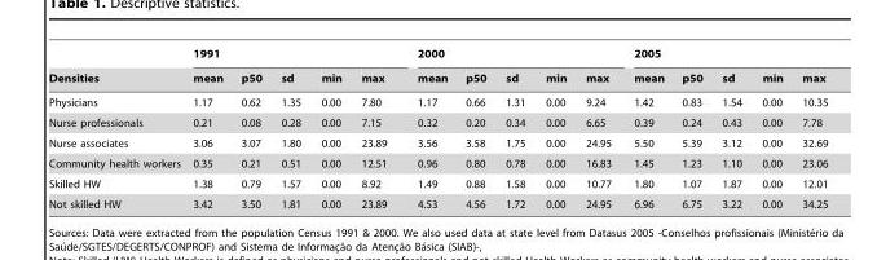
<table><thead><tr><td rowspan="2">Densities</td><td colspan="5">1991</td><td colspan="5">2000</td><td colspan="5">2005</td></tr><tr><td>mean</td><td>p50</td><td>sd</td><td>min</td><td>max</td><td>mean</td><td>p50</td><td>sd</td><td>min</td><td>max</td><td>mean</td><td>p50</td><td>sd</td><td>min</td><td>max</td></tr></thead><tbody><tr><td>Physicians</td><td>1.17</td><td>0.62</td><td>1.35</td><td>0.00</td><td>7.80</td><td>1.17</td><td>0.66</td><td>1.31</td><td>0.00</td><td>9.24</td><td>1.42</td><td>0.83</td><td>1.54</td><td>0.00</td><td>10.35</td></tr><tr><td>Nurse professionals</td><td>0.21</td><td>0.08</td><td>0.28</td><td>0.00</td><td>7.15</td><td>0.32</td><td>0.20</td><td>0.34</td><td>0.00</td><td>6.65</td><td>0.39</td><td>0.24</td><td>0.43</td><td>0.00</td><td>7.78</td></tr><tr><td>Nurse associates</td><td>3.06</td><td>3.07</td><td>1.80</td><td>0.00</td><td>23.89</td><td>3.56</td><td>3.58</td><td>1.75</td><td>0.00</td><td>24.95</td><td>5.50</td><td>5.39</td><td>3.12</td><td>0.00</td><td>32.69</td></tr><tr><td>Community health workers</td><td>0.35</td><td>0.21</td><td>0.51</td><td>0.00</td><td>12.51</td><td>0.96</td><td>0.80</td><td>0.78</td><td>0.00</td><td>16.83</td><td>1.45</td><td>1.23</td><td>1.10</td><td>0.00</td><td>23.06</td></tr><tr><td>Skilled HW</td><td>1.38</td><td>0.79</td><td>1.57</td><td>0.00</td><td>8.92</td><td>1.49</td><td>0.88</td><td>1.58</td><td>0.00</td><td>10.77</td><td>1.80</td><td>1.07</td><td>1.87</td><td>0.00</td><td>12.01</td></tr><tr><td>Not skilled HW</td><td>3.42</td><td>3.50</td><td>1.81</td><td>0.00</td><td>23.89</td><td>4.53</td><td>4.56</td><td>1.72</td><td>0.00</td><td>24.95</td><td>6.96</td><td>6.75</td><td>3.22</td><td>0.00</td><td>34.25</td></tr></tbody></table>